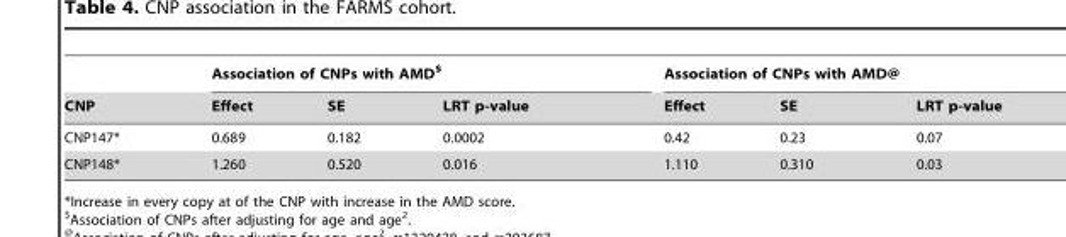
<table><thead><tr><td rowspan="2">CNP</td><td colspan="3">Association of CNPs with AMD$</td><td colspan="3">Association of CNPs with AMD@</td></tr><tr><td>Effect</td><td>SE</td><td>LRT p-value</td><td>Effect</td><td>SE</td><td>LRT p-value</td></tr></thead><tbody><tr><td>CNP147*</td><td>0.689</td><td>0.182</td><td>0.0002</td><td>0.42</td><td>0.23</td><td>0.07</td></tr><tr><td>CNP148*</td><td>1.260</td><td>0.520</td><td>0.016</td><td>1.110</td><td>0.310</td><td>0.03</td></tr></tbody></table>